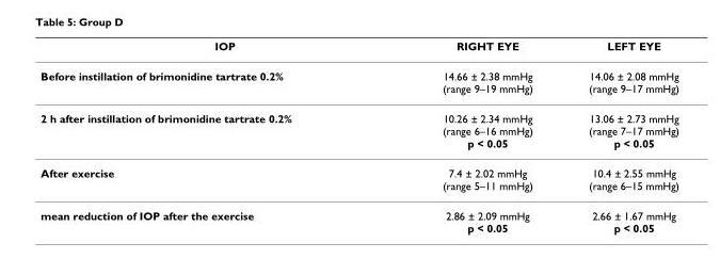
<table><thead><tr><td>IOP</td><td>RIGHT EYE</td><td>LEFT EYE</td></tr></thead><tbody><tr><td>Before instillation of brimonidine tartrate 0.2%</td><td>14.66 ± 2.38 mmHg (range 9–19 mmHg)</td><td>14.06 ± 2.08 mmHg (range 9–17 mmHg)</td></tr><tr><td>2 h after instillation of brimonidine tartrate 0.2%</td><td>10.26 ± 2.34 mmHg (range 6–16 mmHg) p &lt; 0.05</td><td>13.06 ± 2.73 mmHg (range 7–17 mmHg) p &lt; 0.05</td></tr><tr><td>After exercise</td><td>7.4 ± 2.02 mmHg (range 5–11 mmHg)</td><td>10.4 ± 2.55 mmHg (range 6–15 mmHg)</td></tr><tr><td>mean reduction of IOP after the exercise</td><td>2.86 ± 2.09 mmHg p &lt; 0.05</td><td>2.66 ± 1.67 mmHg p &lt; 0.05</td></tr></tbody></table>